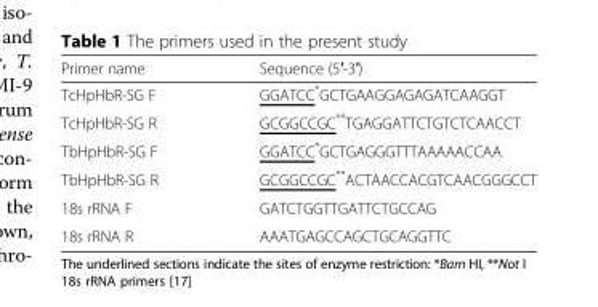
<table><thead><tr><td>Primer name</td><td>Sequence (5′-3′)</td></tr></thead><tbody><tr><td>TcHpHbR-SG F</td><td>GGATCC*GCTGAAGGAGAGATCAAGGT</td></tr><tr><td>TcHpHbR-SG R</td><td>GCGGCCGC**TGAGGATTCTGTCTCAACCT</td></tr><tr><td>TbHpHbR-SG F</td><td>GGATCC*GCTGAGGGTTTAAAAACCAA</td></tr><tr><td>TbHpHbR-SG R</td><td>GCGGCCGC**ACTAACCACGTCAACGGGCCT</td></tr><tr><td>18s rRNA F</td><td>GATCTGGTTGATTCTGCCAG</td></tr><tr><td>18s rRNA R</td><td>AAATGAGCCAGCTGCAGGTTC</td></tr></tbody></table>